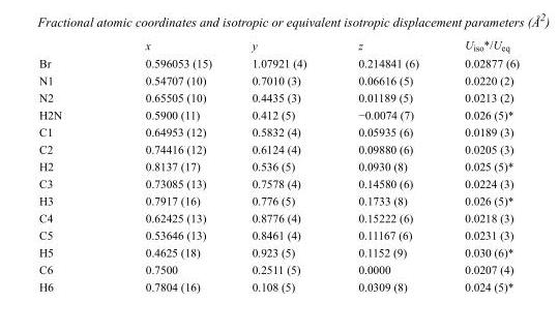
<table><thead><tr><td></td><td>x</td><td>y</td><td>z</td><td>U<sub>iso</sub>*/U<sub>eq</sub></td></tr></thead><tbody><tr><td>Br</td><td>0.596053 (15)</td><td>1.07921 (4)</td><td>0.214841 (6)</td><td>0.02877 (6)</td></tr><tr><td>N1</td><td>0.54707 (10)</td><td>0.7010 (3)</td><td>0.06616 (5)</td><td>0.0220 (2)</td></tr><tr><td>N2</td><td>0.65505 (10)</td><td>0.4435 (3)</td><td>0.01189 (5)</td><td>0.0213 (2)</td></tr><tr><td>H2N</td><td>0.5900 (11)</td><td>0.412 (5)</td><td>−0.0074 (7)</td><td>0.026 (5)*</td></tr><tr><td>C1</td><td>0.64953 (12)</td><td>0.5832 (4)</td><td>0.05935 (6)</td><td>0.0189 (3)</td></tr><tr><td>C2</td><td>0.74416 (12)</td><td>0.6124 (4)</td><td>0.09880 (6)</td><td>0.0205 (3)</td></tr><tr><td>H2</td><td>0.8137 (17)</td><td>0.536 (5)</td><td>0.0930 (8)</td><td>0.025 (5)*</td></tr><tr><td>C3</td><td>0.73085 (13)</td><td>0.7578 (4)</td><td>0.14580 (6)</td><td>0.0224 (3)</td></tr><tr><td>H3</td><td>0.7917 (16)</td><td>0.776 (5)</td><td>0.1733 (8)</td><td>0.026 (5)*</td></tr><tr><td>C4</td><td>0.62425 (13)</td><td>0.8776 (4)</td><td>0.15222 (6)</td><td>0.0218 (3)</td></tr><tr><td>C5</td><td>0.53646 (13)</td><td>0.8461 (4)</td><td>0.11167 (6)</td><td>0.0231 (3)</td></tr><tr><td>H5</td><td>0.4625 (18)</td><td>0.923 (5)</td><td>0.1152 (9)</td><td>0.030 (6)*</td></tr><tr><td>C6</td><td>0.7500</td><td>0.2511 (5)</td><td>0.0000</td><td>0.0207 (4)</td></tr><tr><td>H6</td><td>0.7804 (16)</td><td>0.108 (5)</td><td>0.0309 (8)</td><td>0.024 (5)*</td></tr></tbody></table>